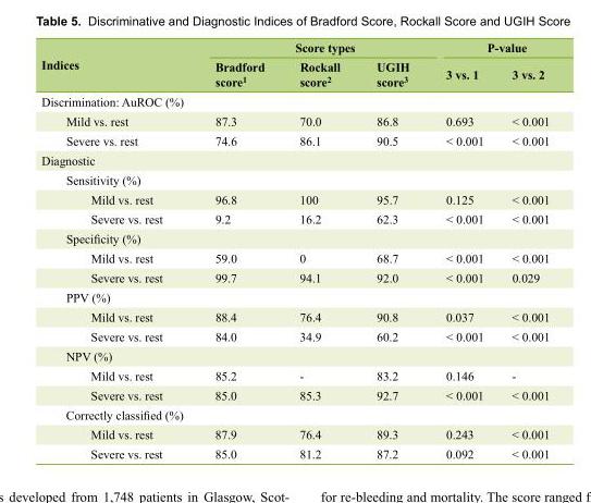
<table><thead><tr><td rowspan="2">Indices</td><td colspan="3">Score types</td><td colspan="2">P-value</td></tr><tr><td>Bradford score<sup>1</sup></td><td>Rockall score<sup>2</sup></td><td>UGIH score<sup>3</sup></td><td>3 vs. 1</td><td>3 vs. 2</td></tr></thead><tbody><tr><td colspan="6">Discrimination: AuROC (%)</td></tr><tr><td>Mild vs. rest</td><td>87.3</td><td>70.0</td><td>86.8</td><td>0.693</td><td>&lt; 0.001</td></tr><tr><td>Severe vs. rest</td><td>74.6</td><td>86.1</td><td>90.5</td><td>&lt; 0.001</td><td>&lt; 0.001</td></tr><tr><td colspan="6">Diagnostic</td></tr><tr><td colspan="6">Sensitivity (%)</td></tr><tr><td>Mild vs. rest</td><td>96.8</td><td>100</td><td>95.7</td><td>0.125</td><td>&lt; 0.001</td></tr><tr><td>Severe vs. rest</td><td>9.2</td><td>16.2</td><td>62.3</td><td>&lt; 0.001</td><td>&lt; 0.001</td></tr><tr><td colspan="6">Specificity (%)</td></tr><tr><td>Mild vs. rest</td><td>59.0</td><td>0</td><td>68.7</td><td>&lt; 0.001</td><td>&lt; 0.001</td></tr><tr><td>Severe vs. rest</td><td>99.7</td><td>94.1</td><td>92.0</td><td>&lt; 0.001</td><td>0.029</td></tr><tr><td colspan="6">PPV (%)</td></tr><tr><td>Mild vs. rest</td><td>88.4</td><td>76.4</td><td>90.8</td><td>0.037</td><td>&lt; 0.001</td></tr><tr><td>Severe vs. rest</td><td>84.0</td><td>34.9</td><td>60.2</td><td>&lt; 0.001</td><td>&lt; 0.001</td></tr><tr><td colspan="6">NPV (%)</td></tr><tr><td>Mild vs. rest</td><td>85.2</td><td>-</td><td>83.2</td><td>0.146</td><td>-</td></tr><tr><td>Severe vs. rest</td><td>85.0</td><td>85.3</td><td>92.7</td><td>&lt; 0.001</td><td>&lt; 0.001</td></tr><tr><td colspan="6">Correctly classified (%)</td></tr><tr><td>Mild vs. rest</td><td>87.9</td><td>76.4</td><td>89.3</td><td>0.243</td><td>&lt; 0.001</td></tr><tr><td>Severe vs. rest</td><td>85.0</td><td>81.2</td><td>87.2</td><td>0.092</td><td>&lt; 0.001</td></tr></tbody></table>